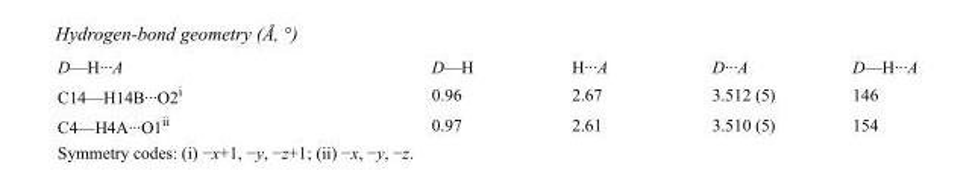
<table><tbody><tr><td>D—H···A</td><td>D—H</td><td>H···A</td><td>D···A</td><td>D—H···A</td></tr><tr><td>C14—H14B···O2<sup>i</sup></td><td>0.96</td><td>2.67</td><td>3.512 (5)</td><td>146</td></tr><tr><td>C4—H4A···O1<sup>ii</sup></td><td>0.97</td><td>2.61</td><td>3.510 (5)</td><td>154</td></tr></tbody></table>